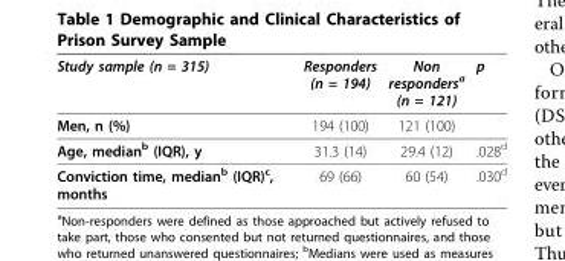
<table><thead><tr><td>Study sample (n = 315)</td><td>Responders (n = 194)</td><td>Non responders<sup>a</sup> (n = 121)</td><td>p</td></tr></thead><tbody><tr><td>Men, n (%)</td><td>194 (100)</td><td>121 (100)</td><td></td></tr><tr><td>Age, median<sup>b</sup> (IQR), y</td><td>31.3 (14)</td><td>29.4 (12)</td><td>.028<sup>d</sup></td></tr><tr><td>Conviction time, median<sup>b</sup> (IQR)<sup>c</sup>, months</td><td>69 (66)</td><td>60 (54)</td><td>.030<sup>d</sup></td></tr></tbody></table>